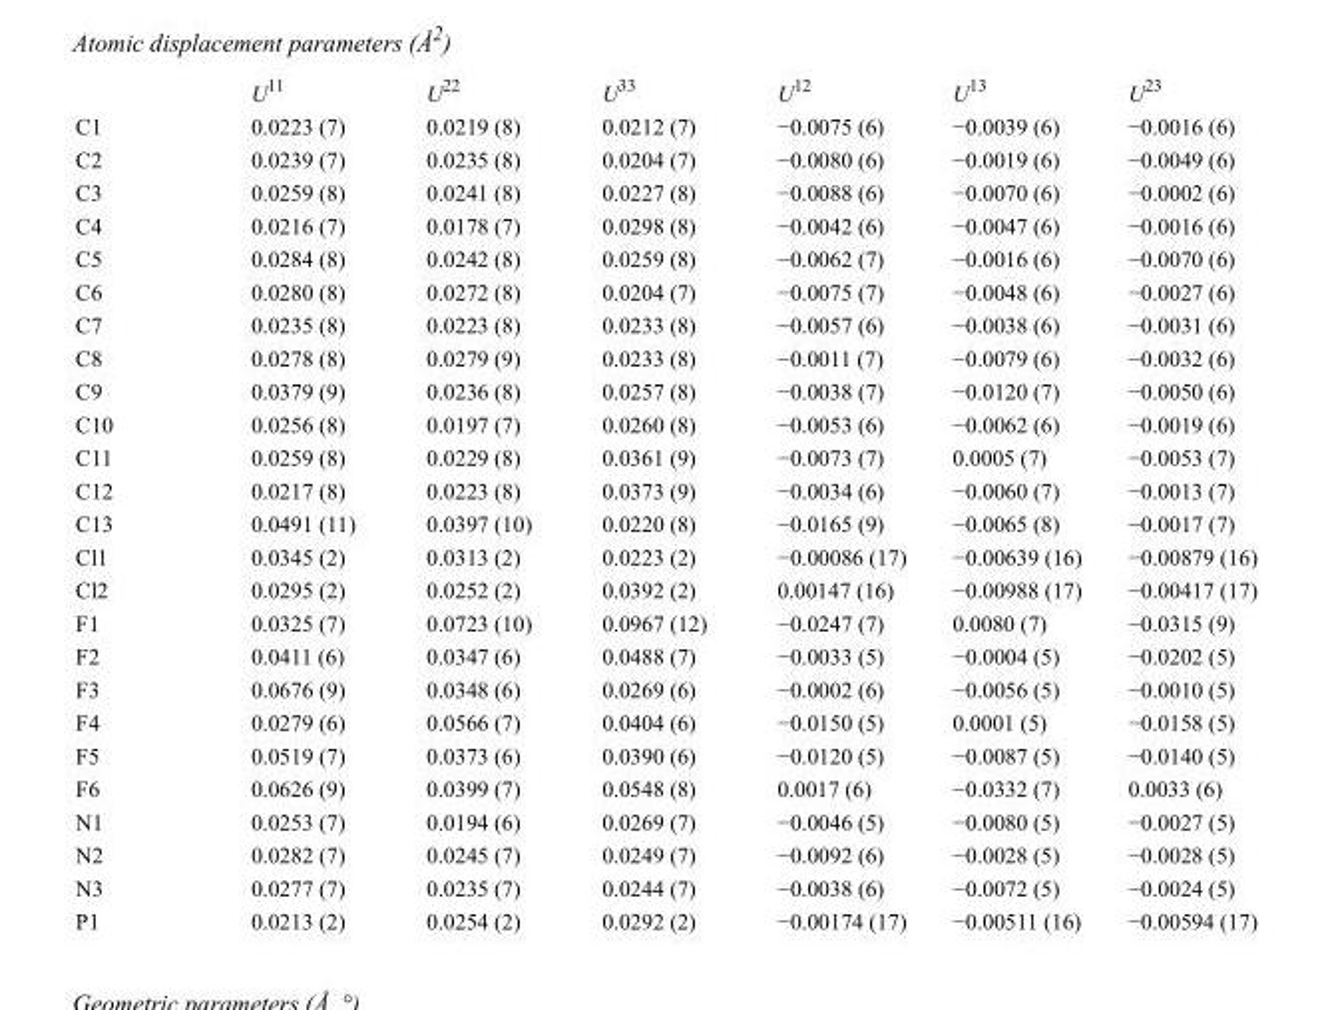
<table><thead><tr><td></td><td>U<sup>11</sup></td><td>U<sup>22</sup></td><td>U<sup>33</sup></td><td>U<sup>12</sup></td><td>U<sup>13</sup></td><td>U<sup>23</sup></td></tr></thead><tbody><tr><td>C1</td><td>0.0223 (7)</td><td>0.0219 (8)</td><td>0.0212 (7)</td><td>−0.0075 (6)</td><td>−0.0039 (6)</td><td>−0.0016 (6)</td></tr><tr><td>C2</td><td>0.0239 (7)</td><td>0.0235 (8)</td><td>0.0204 (7)</td><td>−0.0080 (6)</td><td>−0.0019 (6)</td><td>−0.0049 (6)</td></tr><tr><td>C3</td><td>0.0259 (8)</td><td>0.0241 (8)</td><td>0.0227 (8)</td><td>−0.0088 (6)</td><td>−0.0070 (6)</td><td>−0.0002 (6)</td></tr><tr><td>C4</td><td>0.0216 (7)</td><td>0.0178 (7)</td><td>0.0298 (8)</td><td>−0.0042 (6)</td><td>−0.0047 (6)</td><td>−0.0016 (6)</td></tr><tr><td>C5</td><td>0.0284 (8)</td><td>0.0242 (8)</td><td>0.0259 (8)</td><td>−0.0062 (7)</td><td>−0.0016 (6)</td><td>−0.0070 (6)</td></tr><tr><td>C6</td><td>0.0280 (8)</td><td>0.0272 (8)</td><td>0.0204 (7)</td><td>−0.0075 (7)</td><td>−0.0048 (6)</td><td>−0.0027 (6)</td></tr><tr><td>C7</td><td>0.0235 (8)</td><td>0.0223 (8)</td><td>0.0233 (8)</td><td>−0.0057 (6)</td><td>−0.0038 (6)</td><td>−0.0031 (6)</td></tr><tr><td>C8</td><td>0.0278 (8)</td><td>0.0279 (9)</td><td>0.0233 (8)</td><td>−0.0011 (7)</td><td>−0.0079 (6)</td><td>−0.0032 (6)</td></tr><tr><td>C9</td><td>0.0379 (9)</td><td>0.0236 (8)</td><td>0.0257 (8)</td><td>−0.0038 (7)</td><td>−0.0120 (7)</td><td>−0.0050 (6)</td></tr><tr><td>C10</td><td>0.0256 (8)</td><td>0.0197 (7)</td><td>0.0260 (8)</td><td>−0.0053 (6)</td><td>−0.0062 (6)</td><td>−0.0019 (6)</td></tr><tr><td>C11</td><td>0.0259 (8)</td><td>0.0229 (8)</td><td>0.0361 (9)</td><td>−0.0073 (7)</td><td>0.0005 (7)</td><td>−0.0053 (7)</td></tr><tr><td>C12</td><td>0.0217 (8)</td><td>0.0223 (8)</td><td>0.0373 (9)</td><td>−0.0034 (6)</td><td>−0.0060 (7)</td><td>−0.0013 (7)</td></tr><tr><td>C13</td><td>0.0491 (11)</td><td>0.0397 (10)</td><td>0.0220 (8)</td><td>−0.0165 (9)</td><td>−0.0065 (8)</td><td>−0.0017 (7)</td></tr><tr><td>Cl1</td><td>0.0345 (2)</td><td>0.0313 (2)</td><td>0.0223 (2)</td><td>−0.00086 (17)</td><td>−0.00639 (16)</td><td>−0.00879 (16)</td></tr><tr><td>Cl2</td><td>0.0295 (2)</td><td>0.0252 (2)</td><td>0.0392 (2)</td><td>0.00147 (16)</td><td>−0.00988 (17)</td><td>−0.00417 (17)</td></tr><tr><td>F1</td><td>0.0325 (7)</td><td>0.0723 (10)</td><td>0.0967 (12)</td><td>−0.0247 (7)</td><td>0.0080 (7)</td><td>−0.0315 (9)</td></tr><tr><td>F2</td><td>0.0411 (6)</td><td>0.0347 (6)</td><td>0.0488 (7)</td><td>−0.0033 (5)</td><td>−0.0004 (5)</td><td>−0.0202 (5)</td></tr><tr><td>F3</td><td>0.0676 (9)</td><td>0.0348 (6)</td><td>0.0269 (6)</td><td>−0.0002 (6)</td><td>−0.0056 (5)</td><td>−0.0010 (5)</td></tr><tr><td>F4</td><td>0.0279 (6)</td><td>0.0566 (7)</td><td>0.0404 (6)</td><td>−0.0150 (5)</td><td>0.0001 (5)</td><td>−0.0158 (5)</td></tr><tr><td>F5</td><td>0.0519 (7)</td><td>0.0373 (6)</td><td>0.0390 (6)</td><td>−0.0120 (5)</td><td>−0.0087 (5)</td><td>−0.0140 (5)</td></tr><tr><td>F6</td><td>0.0626 (9)</td><td>0.0399 (7)</td><td>0.0548 (8)</td><td>0.0017 (6)</td><td>−0.0332 (7)</td><td>0.0033 (6)</td></tr><tr><td>N1</td><td>0.0253 (7)</td><td>0.0194 (6)</td><td>0.0269 (7)</td><td>−0.0046 (5)</td><td>−0.0080 (5)</td><td>−0.0027 (5)</td></tr><tr><td>N2</td><td>0.0282 (7)</td><td>0.0245 (7)</td><td>0.0249 (7)</td><td>−0.0092 (6)</td><td>−0.0028 (5)</td><td>−0.0028 (5)</td></tr><tr><td>N3</td><td>0.0277 (7)</td><td>0.0235 (7)</td><td>0.0244 (7)</td><td>−0.0038 (6)</td><td>−0.0072 (5)</td><td>−0.0024 (5)</td></tr><tr><td>P1</td><td>0.0213 (2)</td><td>0.0254 (2)</td><td>0.0292 (2)</td><td>−0.00174 (17)</td><td>−0.00511 (16)</td><td>−0.00594 (17)</td></tr></tbody></table>